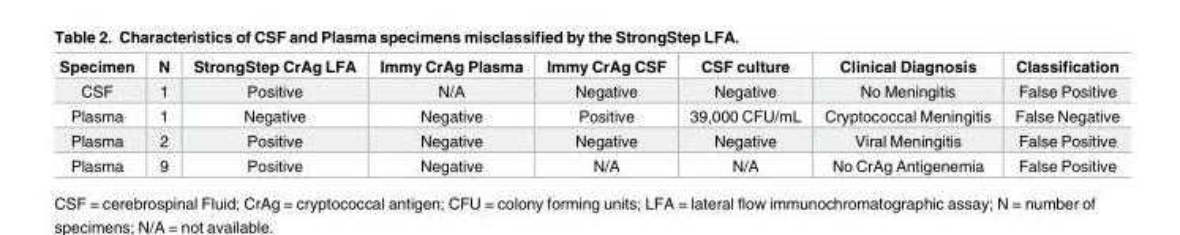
<table><thead><tr><td>Specimen</td><td>N</td><td>StrongStep CrAg LFA</td><td>Immy CrAg Plasma</td><td>Immy CrAg CSF</td><td>CSF culture</td><td>Clinical Diagnosis</td><td>Classification</td></tr></thead><tbody><tr><td>CSF</td><td>1</td><td>Positive</td><td>N/A</td><td>Negative</td><td>Negative</td><td>No Meningitis</td><td>False Positive</td></tr><tr><td>Plasma</td><td>1</td><td>Negative</td><td>Negative</td><td>Positive</td><td>39,000 CFU/mL</td><td>Cryptococcal Meningitis</td><td>False Negative</td></tr><tr><td>Plasma</td><td>2</td><td>Positive</td><td>Negative</td><td>Negative</td><td>Negative</td><td>Viral Meningitis</td><td>False Positive</td></tr><tr><td>Plasma</td><td>9</td><td>Positive</td><td>Negative</td><td>N/A</td><td>N/A</td><td>No CrAg Antigenemia</td><td>False Positive</td></tr></tbody></table>